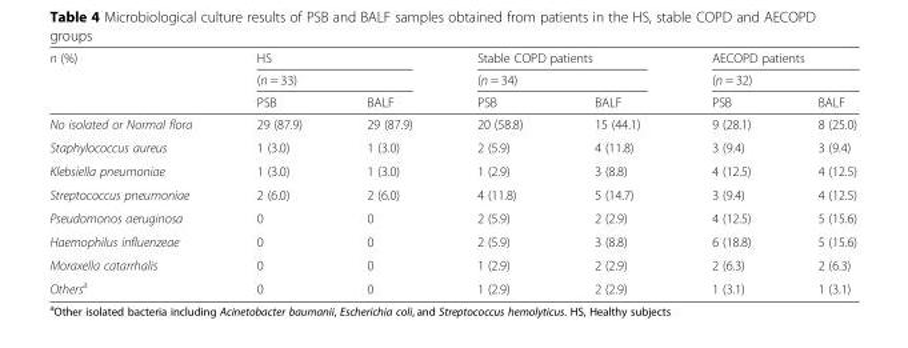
<table><thead><tr><td rowspan="3">n (%)</td><td rowspan="2" colspan="2">HS (n = 33)</td><td rowspan="2" colspan="2">Stable COPD patients (n = 34)</td><td rowspan="2" colspan="2">AECOPD patients (n = 32)</td></tr><tr></tr><tr><td>PSB</td><td>BALF</td><td>PSB</td><td>BALF</td><td>PSB</td><td>BALF</td></tr></thead><tbody><tr><td>No isolated or Normal flora</td><td>29 (87.9)</td><td>29 (87.9)</td><td>20 (58.8)</td><td>15 (44.1)</td><td>9 (28.1)</td><td>8 (25.0)</td></tr><tr><td>Staphylococcus aureus</td><td>1 (3.0)</td><td>1 (3.0)</td><td>2 (5.9)</td><td>4 (11.8)</td><td>3 (9.4)</td><td>3 (9.4)</td></tr><tr><td>Klebsiella pneumoniae</td><td>1 (3.0)</td><td>1 (3.0)</td><td>1 (2.9)</td><td>3 (8.8)</td><td>4 (12.5)</td><td>4 (12.5)</td></tr><tr><td>Streptococcus pneumoniae</td><td>2 (6.0)</td><td>2 (6.0)</td><td>4 (11.8)</td><td>5 (14.7)</td><td>3 (9.4)</td><td>4 (12.5)</td></tr><tr><td>Pseudomonos aeruginosa</td><td>0</td><td>0</td><td>2 (5.9)</td><td>2 (2.9)</td><td>4 (12.5)</td><td>5 (15.6)</td></tr><tr><td>Haemophilus influenzeae</td><td>0</td><td>0</td><td>2 (5.9)</td><td>3 (8.8)</td><td>6 (18.8)</td><td>5 (15.6)</td></tr><tr><td>Moraxella catarrhalis</td><td>0</td><td>0</td><td>1 (2.9)</td><td>2 (2.9)</td><td>2 (6.3)</td><td>2 (6.3)</td></tr><tr><td>Others<sup>a</sup></td><td>0</td><td>0</td><td>1 (2.9)</td><td>2 (2.9)</td><td>1 (3.1)</td><td>1 (3.1)</td></tr></tbody></table>